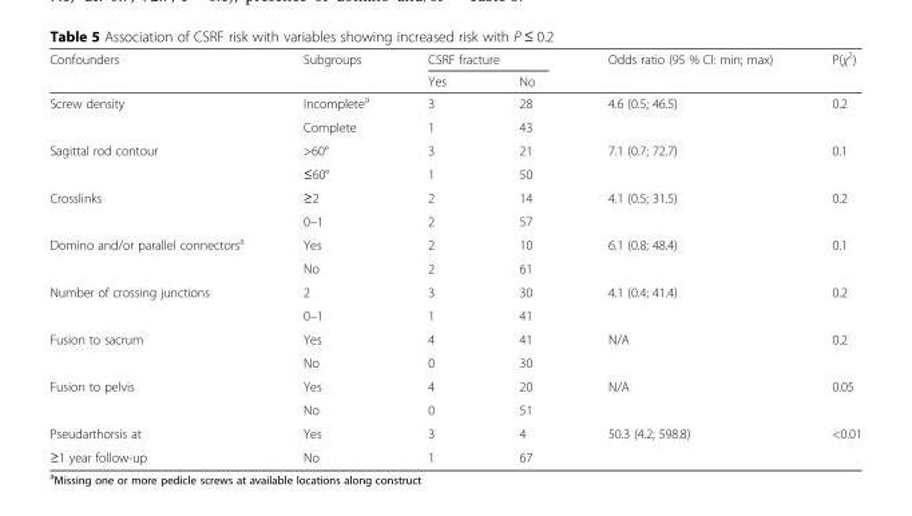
<table><thead><tr><td rowspan="2">Confounders</td><td rowspan="2">Subgroups</td><td colspan="2">CSRF fracture</td><td rowspan="2">Odds ratio (95 % Cl: min; max)</td><td rowspan="2">P(χ<sup>2</sup>)</td></tr><tr><td>Yes</td><td>No</td></tr></thead><tbody><tr><td rowspan="2">Screw density</td><td>Incomplete<sup>a</sup></td><td>3</td><td>28</td><td>4.6 (0.5; 46.5)</td><td>0.2</td></tr><tr><td>Complete</td><td>1</td><td>43</td><td></td><td></td></tr><tr><td rowspan="2">Sagittal rod contour</td><td>&gt;60°</td><td>3</td><td>21</td><td>7.1 (0.7; 72.7)</td><td>0.1</td></tr><tr><td>≤60°</td><td>1</td><td>50</td><td></td><td></td></tr><tr><td rowspan="2">Crosslinks</td><td>≥2</td><td>2</td><td>14</td><td>4.1 (0.5; 31.5)</td><td>0.2</td></tr><tr><td>0–1</td><td>2</td><td>57</td><td></td><td></td></tr><tr><td rowspan="2">Domino and/or parallel connectors<sup>a</sup></td><td>Yes</td><td>2</td><td>10</td><td>6.1 (0.8; 48.4)</td><td>0.1</td></tr><tr><td>No</td><td>2</td><td>61</td><td></td><td></td></tr><tr><td rowspan="2">Number of crossing junctions</td><td>2</td><td>3</td><td>30</td><td>4.1 (0.4; 41.4)</td><td>0.2</td></tr><tr><td>0–1</td><td>1</td><td>41</td><td></td><td></td></tr><tr><td rowspan="2">Fusion to sacrum</td><td>Yes</td><td>4</td><td>41</td><td>N/A</td><td>0.2</td></tr><tr><td>No</td><td>0</td><td>30</td><td></td><td></td></tr><tr><td rowspan="2">Fusion to pelvis</td><td>Yes</td><td>4</td><td>20</td><td>N/A</td><td>0.05</td></tr><tr><td>No</td><td>0</td><td>51</td><td></td><td></td></tr><tr><td>Pseudarthorsis at</td><td>Yes</td><td>3</td><td>4</td><td>50.3 (4.2; 598.8)</td><td>&lt;0.01</td></tr><tr><td>≥1 year follow-up</td><td>No</td><td>1</td><td>67</td><td></td><td></td></tr></tbody></table>